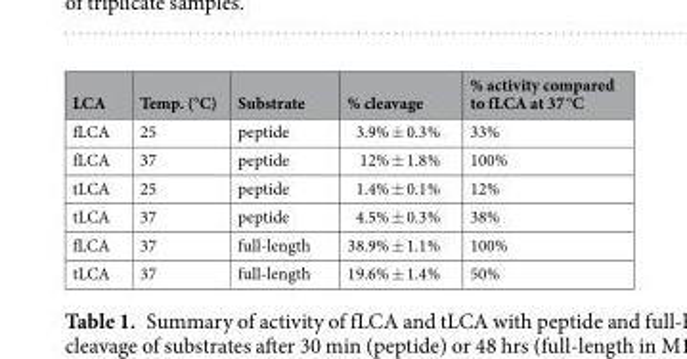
<table><thead><tr><td>LCA</td><td>Temp. (°C)</td><td>Substrate</td><td>% cleavage</td><td>% activity compared to fLCA at 37 °C</td></tr></thead><tbody><tr><td>fLCA</td><td>25</td><td>peptide</td><td>3.9% ± 0.3%</td><td>33%</td></tr><tr><td>fLCA</td><td>37</td><td>peptide</td><td>12% ± 1.8%</td><td>100%</td></tr><tr><td>tLCA</td><td>25</td><td>peptide</td><td>1.4% ± 0.1%</td><td>12%</td></tr><tr><td>tLCA</td><td>37</td><td>peptide</td><td>4.5% ± 0.3%</td><td>38%</td></tr><tr><td>fLCA</td><td>37</td><td>full-length</td><td>38.9% ± 1.1%</td><td>100%</td></tr><tr><td>tLCA</td><td>37</td><td>full-length</td><td>19.6% ± 1.4%</td><td>50%</td></tr></tbody></table>